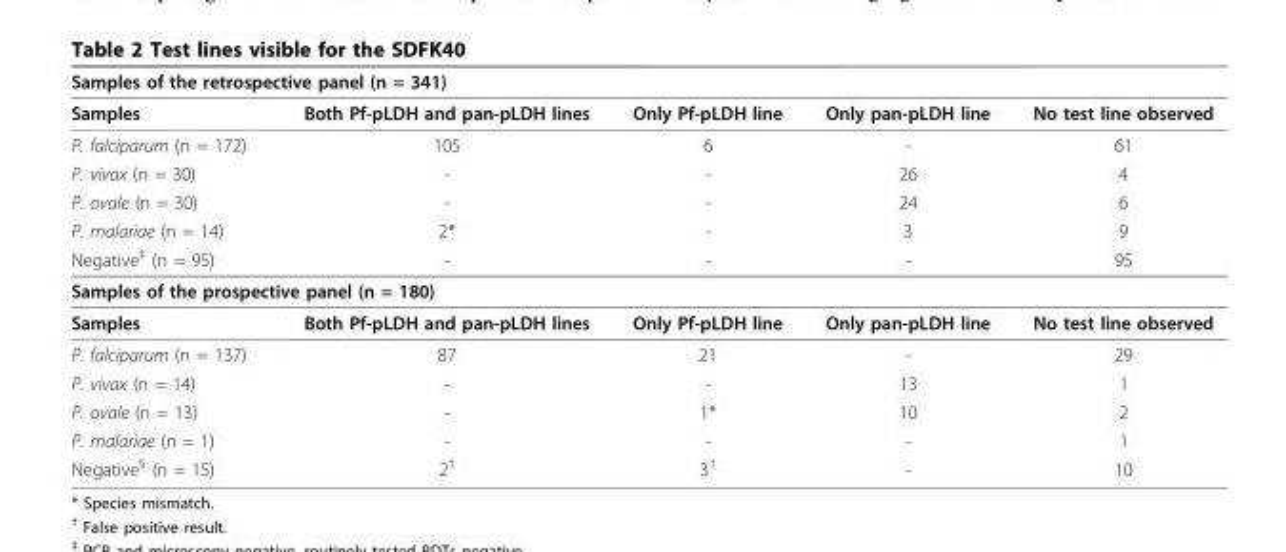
<table><thead><tr><td colspan="5">Samples of the retrospective panel (n = 341)</td></tr><tr><td>Samples</td><td>Both Pf-pLDH and pan-pLDH lines</td><td>Only Pf-pLDH line</td><td>Only pan-pLDH line</td><td>No test line observed</td></tr></thead><tbody><tr><td>P. falciparum (n = 172)</td><td>105</td><td>6</td><td>-</td><td>61</td></tr><tr><td>P. vivax (n = 30)</td><td>-</td><td>-</td><td>26</td><td>4</td></tr><tr><td>P. ovale (n = 30)</td><td>-</td><td>-</td><td>24</td><td>6</td></tr><tr><td>P. malariae (n = 14)</td><td>2*</td><td>-</td><td>3</td><td>9</td></tr><tr><td>Negative<sup>‡</sup> (n = 95)</td><td>-</td><td>-</td><td>-</td><td>95</td></tr><tr><td colspan="5">Samples of the prospective panel (n = 180)</td></tr><tr><td>Samples</td><td>Both Pf-pLDH and pan-pLDH lines</td><td>Only Pf-pLDH line</td><td>Only pan-pLDH line</td><td>No test line observed</td></tr><tr><td>P. falciparum (n = 137)</td><td>87</td><td>21</td><td>-</td><td>29</td></tr><tr><td>P. vivax (n = 14)</td><td>-</td><td>-</td><td>13</td><td>1</td></tr><tr><td>P. ovale (n = 13)</td><td>-</td><td>1*</td><td>10</td><td>2</td></tr><tr><td>P. malariae (n = 1)</td><td>-</td><td>-</td><td>-</td><td>1</td></tr><tr><td>Negative<sup>§</sup> (n = 15)</td><td>2<sup>†</sup></td><td>3<sup>†</sup></td><td>-</td><td>10</td></tr></tbody></table>